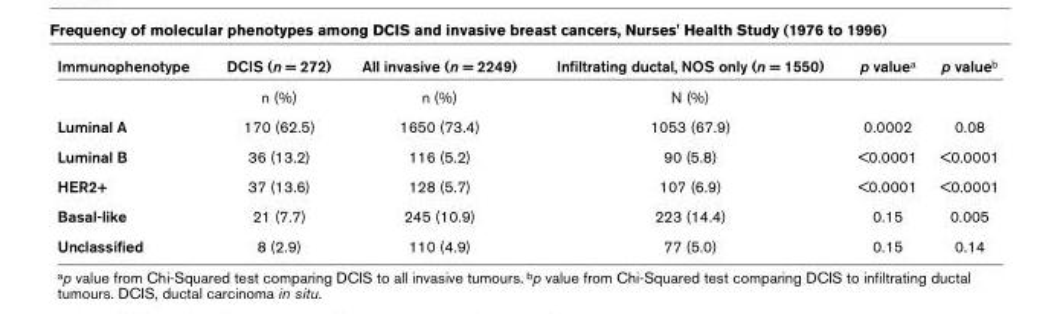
<table><thead><tr><td>Immunophenotype</td><td>DCIS (n = 272)</td><td>All invasive (n = 2249)</td><td>Infiltrating ductal, NOS only (n = 1550)</td><td>p value<sup>a</sup></td><td>p value<sup>b</sup></td></tr></thead><tbody><tr><td></td><td>n (%)</td><td>n (%)</td><td>N (%)</td><td></td><td></td></tr><tr><td>Luminal A</td><td>170 (62.5)</td><td>1650 (73.4)</td><td>1053 (67.9)</td><td>0.0002</td><td>0.08</td></tr><tr><td>Luminal B</td><td>36 (13.2)</td><td>116 (5.2)</td><td>90 (5.8)</td><td>&lt;0.0001</td><td>&lt;0.0001</td></tr><tr><td>HER2+</td><td>37 (13.6)</td><td>128 (5.7)</td><td>107 (6.9)</td><td>&lt;0.0001</td><td>&lt;0.0001</td></tr><tr><td>Basal-like</td><td>21 (7.7)</td><td>245 (10.9)</td><td>223 (14.4)</td><td>0.15</td><td>0.005</td></tr><tr><td>Unclassified</td><td>8 (2.9)</td><td>110 (4.9)</td><td>77 (5.0)</td><td>0.15</td><td>0.14</td></tr></tbody></table>